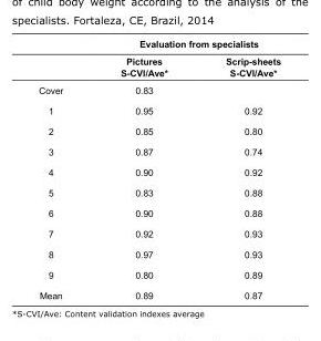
<table><thead><tr><td rowspan="2"></td><td colspan="2">Evaluation from specialists</td></tr><tr><td>Pictures S-CVI/Ave*</td><td>Scrip-sheets S-CVI/Ave*</td></tr></thead><tbody><tr><td>Cover</td><td>0.83</td><td></td></tr><tr><td>1</td><td>0.95</td><td>0.92</td></tr><tr><td>2</td><td>0.85</td><td>0.80</td></tr><tr><td>3</td><td>0.87</td><td>0.74</td></tr><tr><td>4</td><td>0.90</td><td>0.92</td></tr><tr><td>5</td><td>0.83</td><td>0.88</td></tr><tr><td>6</td><td>0.90</td><td>0.88</td></tr><tr><td>7</td><td>0.92</td><td>0.93</td></tr><tr><td>8</td><td>0.97</td><td>0.93</td></tr><tr><td>9</td><td>0.80</td><td>0.89</td></tr><tr><td>Mean</td><td>0.89</td><td>0.87</td></tr></tbody></table>